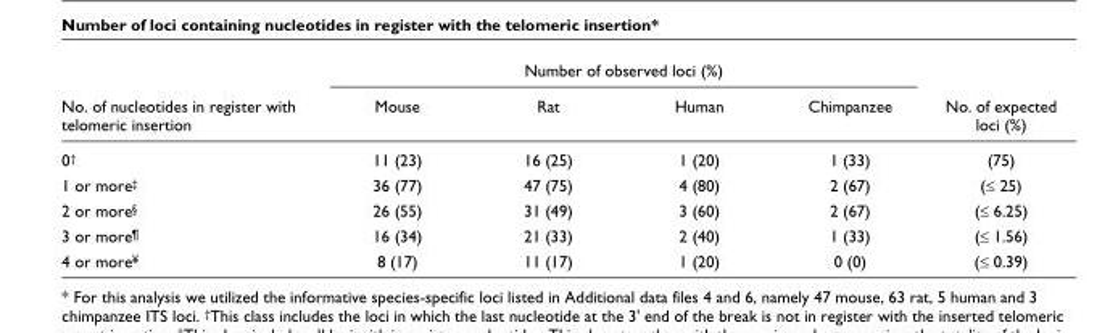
<table><thead><tr><td rowspan="2">No. of nucleotides in register with telomeric insertion</td><td colspan="4">Number of observed loci (%)</td><td rowspan="2">No. of expected loci (%)</td></tr><tr><td>Mouse</td><td>Rat</td><td>Human</td><td>Chimpanzee</td></tr></thead><tbody><tr><td>0<sup>†</sup></td><td>11 (23)</td><td>16 (25)</td><td>1 (20)</td><td>1 (33)</td><td>(75)</td></tr><tr><td>1 or more<sup>‡</sup></td><td>36 (77)</td><td>47 (75)</td><td>4 (80)</td><td>2 (67)</td><td>(≤ 25)</td></tr><tr><td>2 or more<sup>§</sup></td><td>26 (55)</td><td>31 (49)</td><td>3 (60)</td><td>2 (67)</td><td>(≤ 6.25)</td></tr><tr><td>3 or more<sup>¶</sup></td><td>16 (34)</td><td>21 (33)</td><td>2 (40)</td><td>1 (33)</td><td>(≤ 1.56)</td></tr><tr><td>4 or more<sup>¥</sup></td><td>8 (17)</td><td>11 (17)</td><td>1 (20)</td><td>0 (0)</td><td>(≤ 0.39)</td></tr></tbody></table>